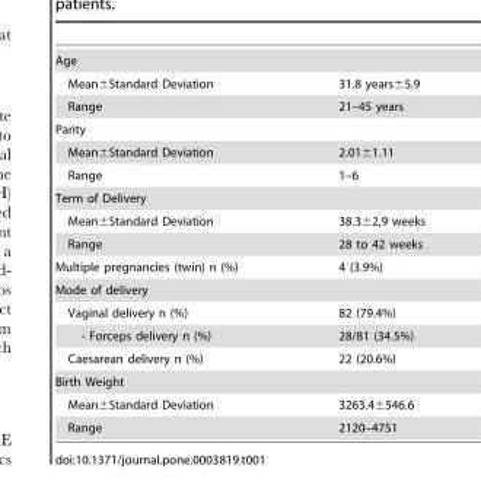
<table><tbody><tr><td colspan="2">Age</td></tr><tr><td>Mean±Standard Deviation</td><td>31.8 years±5.9</td></tr><tr><td>Range</td><td>21–45 years</td></tr><tr><td colspan="2">Parity</td></tr><tr><td>Mean±Standard Deviation</td><td>2.01±1.11</td></tr><tr><td>Range</td><td>1–6</td></tr><tr><td colspan="2">Term of Delivery</td></tr><tr><td>Mean±Standard Deviation</td><td>38.3±2,9 weeks</td></tr><tr><td>Range</td><td>28 to 42 weeks</td></tr><tr><td>Multiple pregnancies (twin) n (%)</td><td>4 (3.9%)</td></tr><tr><td colspan="2">Mode of delivery</td></tr><tr><td>Vaginal delivery n (%)</td><td>82 (79.4%)</td></tr><tr><td>- Forceps delivery n (%)</td><td>28/81 (34.5%)</td></tr><tr><td>Caesarean delivery n (%)</td><td>22 (20.6%)</td></tr><tr><td colspan="2">Birth Weight</td></tr><tr><td>Mean±Standard Deviation</td><td>3263.4±546.6</td></tr><tr><td>Range</td><td>2120–4751</td></tr></tbody></table>